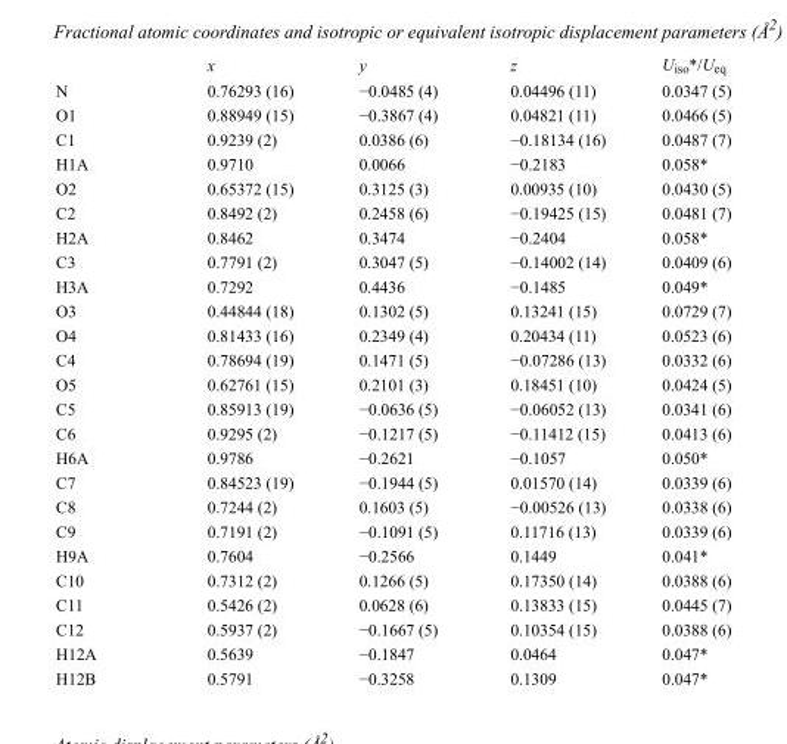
<table><thead><tr><td></td><td>x</td><td>y</td><td>z</td><td>U<sub>iso</sub>*/U<sub>eq</sub></td></tr></thead><tbody><tr><td>N</td><td>0.76293 (16)</td><td>−0.0485 (4)</td><td>0.04496 (11)</td><td>0.0347 (5)</td></tr><tr><td>O1</td><td>0.88949 (15)</td><td>−0.3867 (4)</td><td>0.04821 (11)</td><td>0.0466 (5)</td></tr><tr><td>C1</td><td>0.9239 (2)</td><td>0.0386 (6)</td><td>−0.18134 (16)</td><td>0.0487 (7)</td></tr><tr><td>H1A</td><td>0.9710</td><td>0.0066</td><td>−0.2183</td><td>0.058*</td></tr><tr><td>O2</td><td>0.65372 (15)</td><td>0.3125 (3)</td><td>0.00935 (10)</td><td>0.0430 (5)</td></tr><tr><td>C2</td><td>0.8492 (2)</td><td>0.2458 (6)</td><td>−0.19425 (15)</td><td>0.0481 (7)</td></tr><tr><td>H2A</td><td>0.8462</td><td>0.3474</td><td>−0.2404</td><td>0.058*</td></tr><tr><td>C3</td><td>0.7791 (2)</td><td>0.3047 (5)</td><td>−0.14002 (14)</td><td>0.0409 (6)</td></tr><tr><td>H3A</td><td>0.7292</td><td>0.4436</td><td>−0.1485</td><td>0.049*</td></tr><tr><td>O3</td><td>0.44844 (18)</td><td>0.1302 (5)</td><td>0.13241 (15)</td><td>0.0729 (7)</td></tr><tr><td>O4</td><td>0.81433 (16)</td><td>0.2349 (4)</td><td>0.20434 (11)</td><td>0.0523 (6)</td></tr><tr><td>C4</td><td>0.78694 (19)</td><td>0.1471 (5)</td><td>−0.07286 (13)</td><td>0.0332 (6)</td></tr><tr><td>O5</td><td>0.62761 (15)</td><td>0.2101 (3)</td><td>0.18451 (10)</td><td>0.0424 (5)</td></tr><tr><td>C5</td><td>0.85913 (19)</td><td>−0.0636 (5)</td><td>−0.06052 (13)</td><td>0.0341 (6)</td></tr><tr><td>C6</td><td>0.9295 (2)</td><td>−0.1217 (5)</td><td>−0.11412 (15)</td><td>0.0413 (6)</td></tr><tr><td>H6A</td><td>0.9786</td><td>−0.2621</td><td>−0.1057</td><td>0.050*</td></tr><tr><td>C7</td><td>0.84523 (19)</td><td>−0.1944 (5)</td><td>0.01570 (14)</td><td>0.0339 (6)</td></tr><tr><td>C8</td><td>0.7244 (2)</td><td>0.1603 (5)</td><td>−0.00526 (13)</td><td>0.0338 (6)</td></tr><tr><td>C9</td><td>0.7191 (2)</td><td>−0.1091 (5)</td><td>0.11716 (13)</td><td>0.0339 (6)</td></tr><tr><td>H9A</td><td>0.7604</td><td>−0.2566</td><td>0.1449</td><td>0.041*</td></tr><tr><td>C10</td><td>0.7312 (2)</td><td>0.1266 (5)</td><td>0.17350 (14)</td><td>0.0388 (6)</td></tr><tr><td>C11</td><td>0.5426 (2)</td><td>0.0628 (6)</td><td>0.13833 (15)</td><td>0.0445 (7)</td></tr><tr><td>C12</td><td>0.5937 (2)</td><td>−0.1667 (5)</td><td>0.10354 (15)</td><td>0.0388 (6)</td></tr><tr><td>H12A</td><td>0.5639</td><td>−0.1847</td><td>0.0464</td><td>0.047*</td></tr><tr><td>H12B</td><td>0.5791</td><td>−0.3258</td><td>0.1309</td><td>0.047*</td></tr></tbody></table>